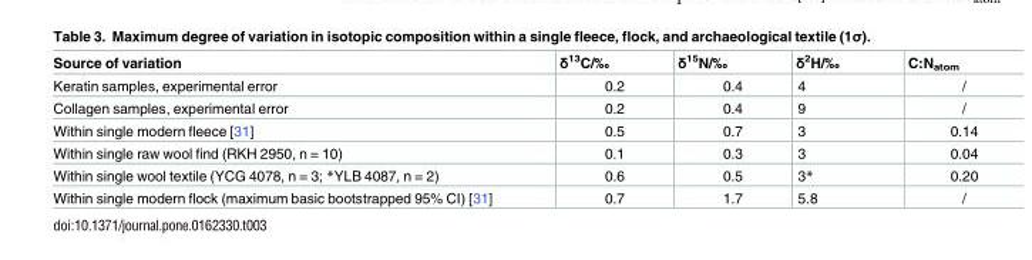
<table><thead><tr><td>Source of variation</td><td>δ<sup>13</sup>C/‰</td><td>δ<sup>15</sup>N/‰</td><td>δ<sup>2</sup>H/‰</td><td>C:N<sub>atom</sub></td></tr></thead><tbody><tr><td>Keratin samples, experimental error</td><td>0.2</td><td>0.4</td><td>4</td><td>/</td></tr><tr><td>Collagen samples, experimental error</td><td>0.2</td><td>0.4</td><td>9</td><td>/</td></tr><tr><td>Within single modern fleece [31]</td><td>0.5</td><td>0.7</td><td>3</td><td>0.14</td></tr><tr><td>Within single raw wool find (RKH 2950, n = 10)</td><td>0.1</td><td>0.3</td><td>3</td><td>0.04</td></tr><tr><td>Within single wool textile (YCG 4078, n = 3; *YLB 4087, n = 2)</td><td>0.6</td><td>0.5</td><td>3*</td><td>0.20</td></tr><tr><td>Within single modern flock (maximum basic bootstrapped 95% CI) [31]</td><td>0.7</td><td>1.7</td><td>5.8</td><td>/</td></tr></tbody></table>